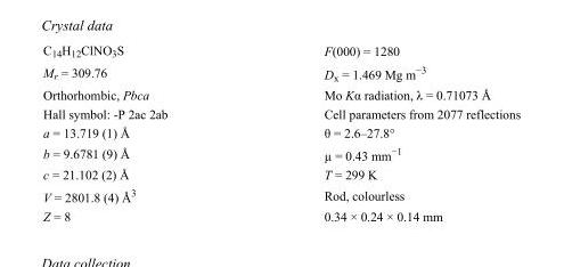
<table><tbody><tr><td>C<sub>14</sub>H<sub>12</sub>ClNO<sub>3</sub>S</td><td>F(000) = 1280</td></tr><tr><td>M<sub>r</sub> = 309.76</td><td>D<sub>x</sub> = 1.469 Mg m<sup>−3</sup></td></tr><tr><td>Orthorhombic, Pbca</td><td>Mo Kα radiation, λ = 0.71073 Å</td></tr><tr><td>Hall symbol: -P 2ac 2ab</td><td>Cell parameters from 2077 reflections</td></tr><tr><td>a = 13.719 (1) Å</td><td>θ = 2.6–27.8°</td></tr><tr><td>b = 9.6781 (9) Å</td><td>µ = 0.43 mm<sup>−1</sup></td></tr><tr><td>c = 21.102 (2) Å</td><td>T = 299 K</td></tr><tr><td>V = 2801.8 (4) Å<sup>3</sup></td><td>Rod, colourless</td></tr><tr><td>Z = 8</td><td>0.34 × 0.24 × 0.14 mm</td></tr></tbody></table>